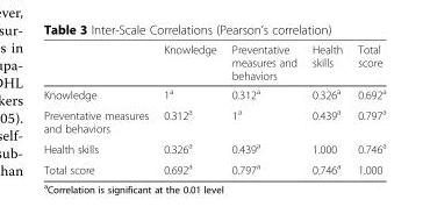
<table><thead><tr><td></td><td>Knowledge</td><td>Preventative measures and behaviors</td><td>Health skills</td><td>Total score</td></tr></thead><tbody><tr><td>Knowledge</td><td>1<sup>a</sup></td><td>0.312<sup>a</sup></td><td>0.326<sup>a</sup></td><td>0.692<sup>a</sup></td></tr><tr><td>Preventative measures and behaviors</td><td>0.312<sup>a</sup></td><td>1<sup>a</sup></td><td>0.439<sup>a</sup></td><td>0.797<sup>a</sup></td></tr><tr><td>Health skills</td><td>0.326<sup>a</sup></td><td>0.439<sup>a</sup></td><td>1.000</td><td>0.746<sup>a</sup></td></tr><tr><td>Total score</td><td>0.692<sup>a</sup></td><td>0.797<sup>a</sup></td><td>0.746<sup>a</sup></td><td>1.000</td></tr></tbody></table>